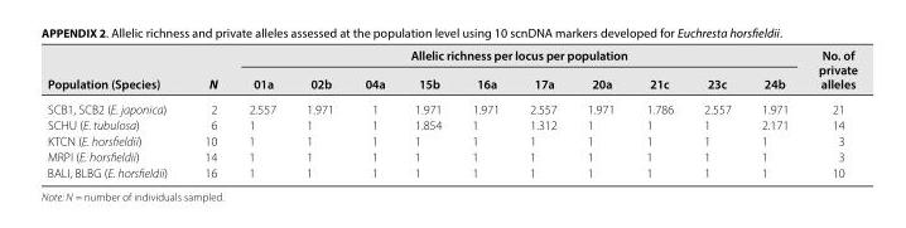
<table><thead><tr><td rowspan="2">Population (Species)</td><td rowspan="2">N</td><td colspan="10">Allelic richness per locus per population</td><td rowspan="2">No. of private alleles</td></tr><tr><td>01a</td><td>02b</td><td>04a</td><td>15b</td><td>16a</td><td>17a</td><td>20a</td><td>21c</td><td>23c</td><td>24b</td></tr></thead><tbody><tr><td>SCB1, SCB2 (E. japonica)</td><td>2</td><td>2.557</td><td>1.971</td><td>1</td><td>1.971</td><td>1.971</td><td>2.557</td><td>1.971</td><td>1.786</td><td>2.557</td><td>1.971</td><td>21</td></tr><tr><td>SCHU (E. tubulosa)</td><td>6</td><td>1</td><td>1</td><td>1</td><td>1.854</td><td>1</td><td>1.312</td><td>1</td><td>1</td><td>1</td><td>2.171</td><td>14</td></tr><tr><td>KTCN (E. horsfieldii)</td><td>10</td><td>1</td><td>1</td><td>1</td><td>1</td><td>1</td><td>1</td><td>1</td><td>1</td><td>1</td><td>1</td><td>3</td></tr><tr><td>MRPI (E. horsfieldii)</td><td>14</td><td>1</td><td>1</td><td>1</td><td>1</td><td>1</td><td>1</td><td>1</td><td>1</td><td>1</td><td>1</td><td>3</td></tr><tr><td>BALI, BLBG (E. horsfieldii)</td><td>16</td><td>1</td><td>1</td><td>1</td><td>1</td><td>1</td><td>1</td><td>1</td><td>1</td><td>1</td><td>1</td><td>10</td></tr></tbody></table>